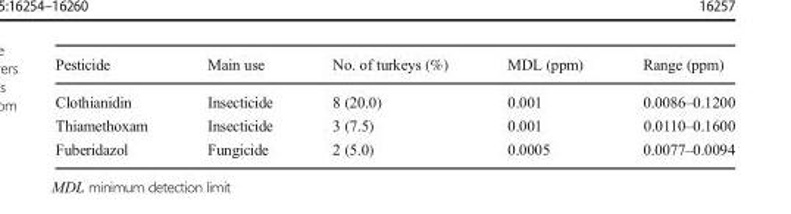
<table><thead><tr><td>Pesticide</td><td>Main use</td><td>No. of turkeys (%)</td><td>MDL (ppm)</td><td>Range (ppm)</td></tr></thead><tbody><tr><td>Clothianidin</td><td>Insecticide</td><td>8 (20.0)</td><td>0.001</td><td>0.0086–0.1200</td></tr><tr><td>Thiamethoxam</td><td>Insecticide</td><td>3 (7.5)</td><td>0.001</td><td>0.0110–0.1600</td></tr><tr><td>Fuberidazol</td><td>Fungicide</td><td>2 (5.0)</td><td>0.0005</td><td>0.0077–0.0094</td></tr></tbody></table>